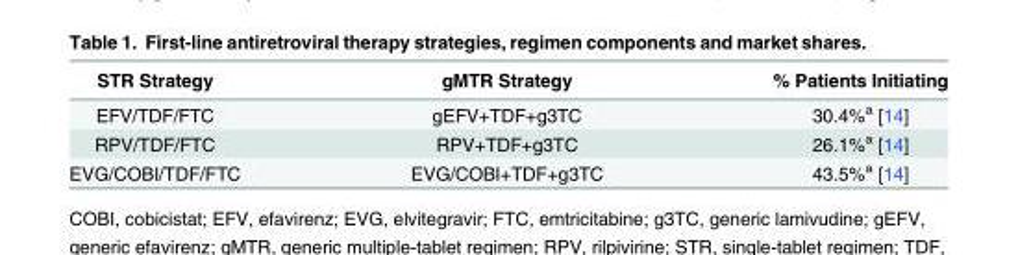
<table><thead><tr><td>STR Strategy</td><td>gMTR Strategy</td><td>% Patients Initiating</td></tr></thead><tbody><tr><td>EFV/TDF/FTC</td><td>gEFV+TDF+g3TC</td><td>30.4%<sup>a</sup> [14]</td></tr><tr><td>RPV/TDF/FTC</td><td>RPV+TDF+g3TC</td><td>26.1%<sup>a</sup> [14]</td></tr><tr><td>EVG/COBI/TDF/FTC</td><td>EVG/COBI+TDF+g3TC</td><td>43.5%<sup>a</sup> [14]</td></tr></tbody></table>